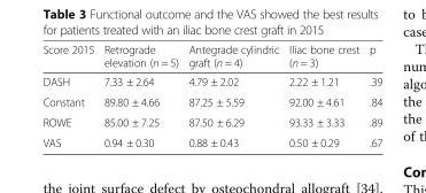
<table><thead><tr><td>Score 2015</td><td>Retrograde elevation (n = 5)</td><td>Antegrade cylindric graft (n = 4)</td><td>Iliac bone crest (n = 3)</td><td>p</td></tr></thead><tbody><tr><td>DASH</td><td>7.33 ± 2.64</td><td>4.79 ± 2.02</td><td>2.22 ± 1.21</td><td>.39</td></tr><tr><td>Constant</td><td>89.80 ± 4.66</td><td>87.25 ± 5.59</td><td>92.00 ± 4.61</td><td>.84</td></tr><tr><td>ROWE</td><td>85.00 ± 7.25</td><td>87.50 ± 6.29</td><td>93.33 ± 3.33</td><td>.89</td></tr><tr><td>VAS</td><td>0.94 ± 0.30</td><td>0.88 ± 0.43</td><td>0.50 ± 0.29</td><td>.67</td></tr></tbody></table>